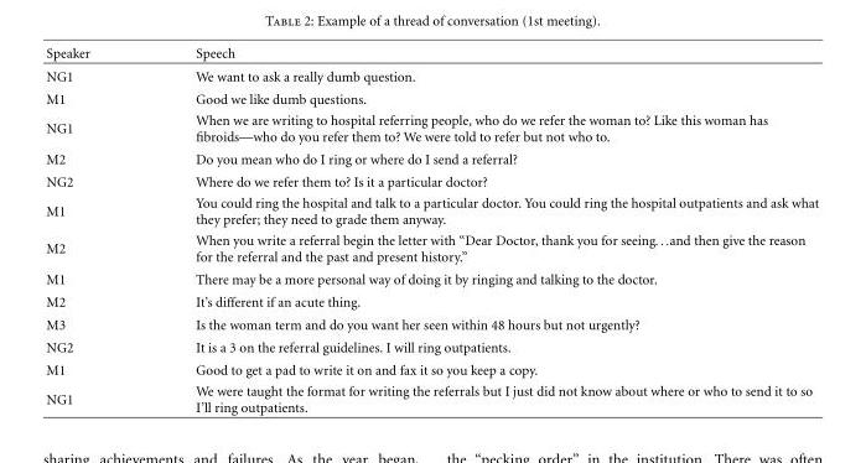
<table><thead><tr><td>Speaker</td><td>Speech</td></tr></thead><tbody><tr><td>NG1</td><td>We want to ask a really dumb question.</td></tr><tr><td>M1</td><td>Good we like dumb questions.</td></tr><tr><td>NG1</td><td>When we are writing to hospital referring people, who do we refer the woman to? Like this woman has fibroids—who do you refer them to? We were told to refer but not who to.</td></tr><tr><td>M2</td><td>Do you mean who do I ring or where do I send a referral?</td></tr><tr><td>NG2</td><td>Where do we refer them to? Is it a particular doctor?</td></tr><tr><td>M1</td><td>You could ring the hospital and talk to a particular doctor. You could ring the hospital outpatients and ask what they prefer; they need to grade them anyway.</td></tr><tr><td>M2</td><td>When you write a referral begin the letter with “Dear Doctor, thank you for seeing...and then give the reason for the referral and the past and present history.”</td></tr><tr><td>M1</td><td>There may be a more personal way of doing it by ringing and talking to the doctor.</td></tr><tr><td>M2</td><td>It’s different if an acute thing.</td></tr><tr><td>M3</td><td>Is the woman term and do you want her seen within 48 hours but not urgently?</td></tr><tr><td>NG2</td><td>It is a 3 on the referral guidelines. I will ring outpatients.</td></tr><tr><td>M1</td><td>Good to get a pad to write it on and fax it so you keep a copy.</td></tr><tr><td>NG1</td><td>We were taught the format for writing the referrals but I just did not know about where or who to send it to so I’ll ring outpatients.</td></tr></tbody></table>